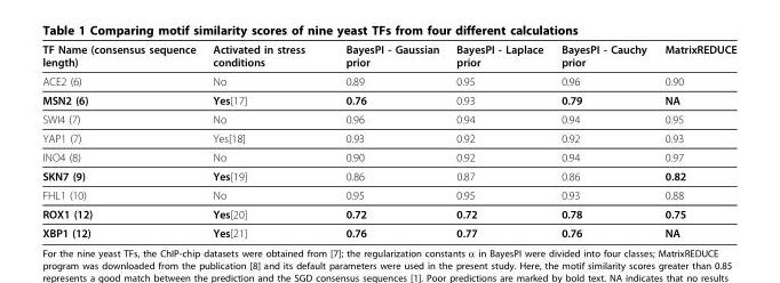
<table><thead><tr><td>TF Name (consensus sequence length)</td><td>Activated in stress conditions</td><td>BayesPI - Gaussian prior</td><td>BayesPI - Laplace prior</td><td>BayesPI - Cauchy prior</td><td>MatrixREDUCE</td></tr></thead><tbody><tr><td>ACE2 (6)</td><td>No</td><td>0.89</td><td>0.95</td><td>0.96</td><td>0.90</td></tr><tr><td>MSN2 (6)</td><td>Yes[17]</td><td>0.76</td><td>0.93</td><td>0.79</td><td>NA</td></tr><tr><td>SWI4 (7)</td><td>No</td><td>0.96</td><td>0.94</td><td>0.94</td><td>0.95</td></tr><tr><td>YAP1 (7)</td><td>Yes[18]</td><td>0.93</td><td>0.92</td><td>0.92</td><td>0.93</td></tr><tr><td>INO4 (8)</td><td>No</td><td>0.90</td><td>0.92</td><td>0.94</td><td>0.97</td></tr><tr><td>SKN7 (9)</td><td>Yes[19]</td><td>0.86</td><td>0.87</td><td>0.86</td><td>0.82</td></tr><tr><td>FHL1 (10)</td><td>No</td><td>0.95</td><td>0.95</td><td>0.93</td><td>0.88</td></tr><tr><td>ROX1 (12)</td><td>Yes[20]</td><td>0.72</td><td>0.72</td><td>0.78</td><td>0.75</td></tr><tr><td>XBP1 (12)</td><td>Yes[21]</td><td>0.76</td><td>0.77</td><td>0.76</td><td>NA</td></tr></tbody></table>